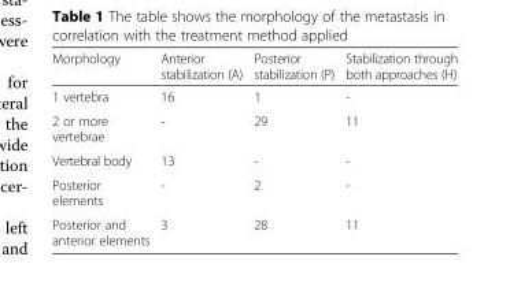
<table><thead><tr><td>Morphology</td><td>Anterior stabilization (A)</td><td>Posterior stabilization (P)</td><td>Stabilization through both approaches (H)</td></tr></thead><tbody><tr><td>1 vertebra</td><td>16</td><td>1</td><td>-</td></tr><tr><td>2 or more vertebrae</td><td>-</td><td>29</td><td>11</td></tr><tr><td>Vertebral body</td><td>13</td><td>-</td><td>-</td></tr><tr><td>Posterior elements</td><td>-</td><td>2</td><td>-</td></tr><tr><td>Posterior and anterior elements</td><td>3</td><td>28</td><td>11</td></tr></tbody></table>